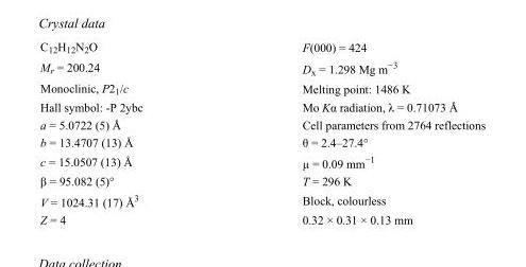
<table><tbody><tr><td>C<sub>12</sub>H<sub>12</sub>N<sub>2</sub>O</td><td>F(000) = 424</td></tr><tr><td>M<sub>r</sub> = 200.24</td><td>D<sub>x</sub> = 1.298 Mg m<sup>−3</sup></td></tr><tr><td>Monoclinic, P2<sub>1</sub>/c</td><td>Melting point: 1486 K</td></tr><tr><td>Hall symbol: -P 2ybc</td><td>Mo Kα radiation, λ = 0.71073 Å</td></tr><tr><td>a = 5.0722 (5) Å</td><td>Cell parameters from 2764 reflections</td></tr><tr><td>b = 13.4707 (13) Å</td><td>θ = 2.4–27.4°</td></tr><tr><td>c = 15.0507 (13) Å</td><td>µ = 0.09 mm<sup>−1</sup></td></tr><tr><td>β = 95.082 (5)°</td><td>T = 296 K</td></tr><tr><td>V = 1024.31 (17) Å<sup>3</sup></td><td>Block, colourless</td></tr><tr><td>Z = 4</td><td>0.32 × 0.31 × 0.13 mm</td></tr></tbody></table>